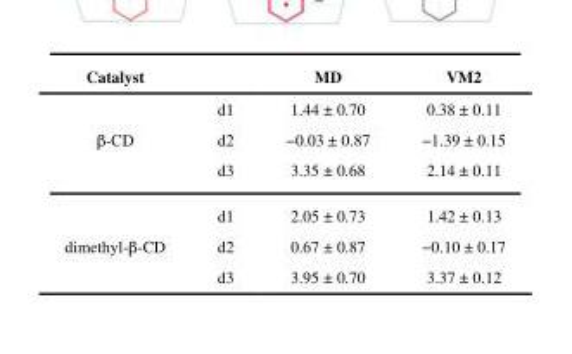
<table><thead><tr><td>Catalyst</td><td></td><td>MD</td><td>VM2</td></tr></thead><tbody><tr><td rowspan="3">β-CD</td><td>d1</td><td>1.44 ± 0.70</td><td>0.38 ± 0.11</td></tr><tr><td>d2</td><td>−0.03 ± 0.87</td><td>−1.39 ± 0.15</td></tr><tr><td>d3</td><td>3.35 ± 0.68</td><td>2.14 ± 0.11</td></tr><tr><td rowspan="3">dimethyl-β-CD</td><td>d1</td><td>2.05 ± 0.73</td><td>1.42 ± 0.13</td></tr><tr><td>d2</td><td>0.67 ± 0.87</td><td>−0.10 ± 0.17</td></tr><tr><td>d3</td><td>3.95 ± 0.70</td><td>3.37 ± 0.12</td></tr></tbody></table>